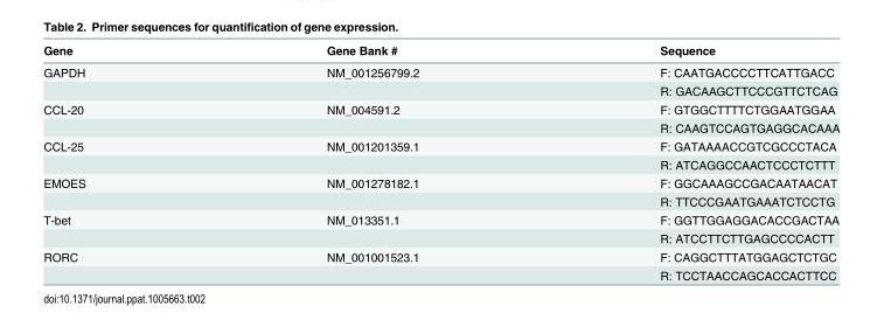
<table><thead><tr><td>Gene</td><td>Gene Bank #</td><td>Sequence</td></tr></thead><tbody><tr><td rowspan="2">GAPDH</td><td>NM_001256799.2</td><td>F: CAATGACCCCTTCATTGACC</td></tr><tr><td></td><td>R: GACAAGCTTCCCGTTCTCAG</td></tr><tr><td rowspan="2">CCL-20</td><td>NM_004591.2</td><td>F: GTGGCTTTTCTGGAATGGAA</td></tr><tr><td></td><td>R: CAAGTCCAGTGAGGCACAAA</td></tr><tr><td rowspan="2">CCL-25</td><td>NM_001201359.1</td><td>F: GATAAAACCGTCGCCCTACA</td></tr><tr><td></td><td>R: ATCAGGCCAACTCCCTCTTT</td></tr><tr><td rowspan="2">EMOES</td><td>NM_001278182.1</td><td>F: GGCAAAGCCGACAATAACAT</td></tr><tr><td></td><td>R: TTCCCGAATGAAATCTCCTG</td></tr><tr><td rowspan="2">T-bet</td><td>NM_013351.1</td><td>F: GGTTGGAGGACACCGACTAA</td></tr><tr><td></td><td>R: ATCCTTCTTGAGCCCCACTT</td></tr><tr><td rowspan="2">RORC</td><td>NM_001001523.1</td><td>F: CAGGCTTTATGGAGCTCTGC</td></tr><tr><td></td><td>R: TCCTAACCAGCACCACTTCC</td></tr></tbody></table>